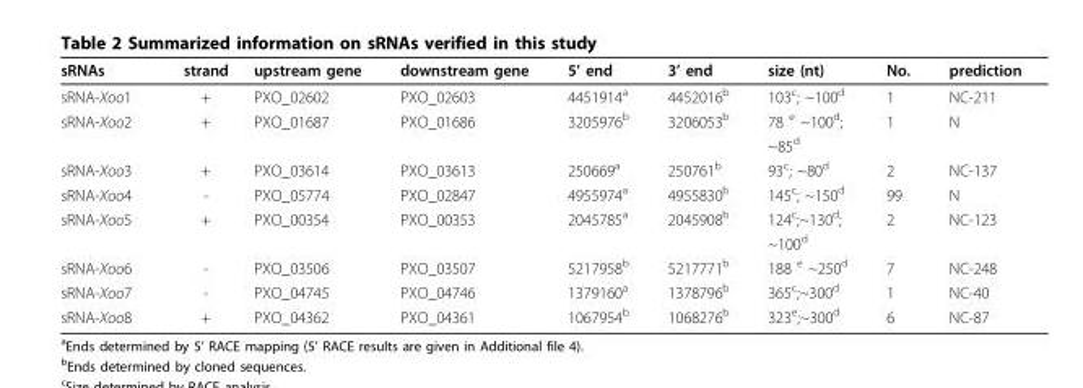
<table><thead><tr><td>sRNAs</td><td>strand</td><td>upstream gene</td><td>downstream gene</td><td>5’ end</td><td>3’ end</td><td>size (nt)</td><td>No.</td><td>prediction</td></tr></thead><tbody><tr><td>sRNA-Xoo1</td><td>+</td><td>PXO_02602</td><td>PXO_02603</td><td>4451914<sup>a</sup></td><td>4452016<sup>b</sup></td><td>103<sup>c</sup>; ~100<sup>d</sup></td><td>1</td><td>NC-211</td></tr><tr><td rowspan="2">sRNA-Xoo2</td><td>+</td><td>PXO_01687</td><td>PXO_01686</td><td>3205976<sup>b</sup></td><td>3206053<sup>b</sup></td><td>78 <sup>e</sup> ~100<sup>d</sup>;</td><td>1</td><td>N</td></tr><tr><td></td><td></td><td></td><td></td><td></td><td>~85<sup>d</sup></td><td></td><td></td></tr><tr><td>sRNA-Xoo3</td><td>+</td><td>PXO_03614</td><td>PXO_03613</td><td>250669<sup>a</sup></td><td>250761<sup>b</sup></td><td>93<sup>c</sup>; ~80<sup>d</sup></td><td>2</td><td>NC-137</td></tr><tr><td>sRNA-Xoo4</td><td>-</td><td>PXO_05774</td><td>PXO_02847</td><td>4955974<sup>a</sup></td><td>4955830<sup>b</sup></td><td>145<sup>c</sup>; ~150<sup>d</sup></td><td>99</td><td>N</td></tr><tr><td rowspan="2">sRNA-Xoo5</td><td>+</td><td>PXO_00354</td><td>PXO_00353</td><td>2045785<sup>a</sup></td><td>2045908<sup>b</sup></td><td>124<sup>c</sup>;~130<sup>d</sup>;</td><td>2</td><td>NC-123</td></tr><tr><td></td><td></td><td></td><td></td><td></td><td>~100<sup>d</sup></td><td></td><td></td></tr><tr><td>sRNA-Xoo6</td><td>-</td><td>PXO_03506</td><td>PXO_03507</td><td>5217958<sup>b</sup></td><td>5217771<sup>b</sup></td><td>188 <sup>e</sup> ~250<sup>d</sup></td><td>7</td><td>NC-248</td></tr><tr><td>sRNA-Xoo7</td><td>-</td><td>PXO_04745</td><td>PXO_04746</td><td>1379160<sup>a</sup></td><td>1378796<sup>b</sup></td><td>365<sup>c</sup>;~300<sup>d</sup></td><td>1</td><td>NC-40</td></tr><tr><td>sRNA-Xoo8</td><td>+</td><td>PXO_04362</td><td>PXO_04361</td><td>1067954<sup>b</sup></td><td>1068276<sup>b</sup></td><td>323<sup>e</sup>;~300<sup>d</sup></td><td>6</td><td>NC-87</td></tr></tbody></table>